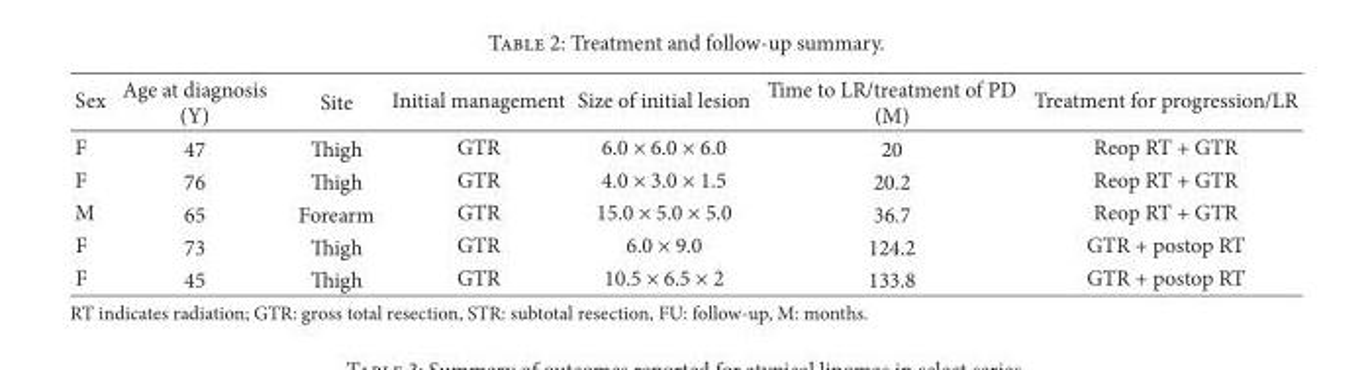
<table><thead><tr><td>Sex</td><td>Age at diagnosis (Y)</td><td>Site</td><td>Initial management</td><td>Size of initial lesion</td><td>Time to LR/treatment of PD (M)</td><td>Treatment for progression/LR</td></tr></thead><tbody><tr><td>F</td><td>47</td><td>igh</td><td>GTR</td><td>6.0 × 6.0 × 6.0</td><td>20</td><td>Reop RT + GTR</td></tr><tr><td>F</td><td>76</td><td>igh</td><td>GTR</td><td>4.0 × 3.0 × 1.5</td><td>20.2</td><td>Reop RT + GTR</td></tr><tr><td>M</td><td>65</td><td>Forearm</td><td>GTR</td><td>15.0 × 5.0 × 5.0</td><td>36.7</td><td>Reop RT + GTR</td></tr><tr><td>F</td><td>73</td><td>igh</td><td>GTR</td><td>6.0 × 9.0</td><td>124.2</td><td>GTR + postop RT</td></tr><tr><td>F</td><td>45</td><td>igh</td><td>GTR</td><td>10.5 × 6.5 × 2</td><td>133.8</td><td>GTR + postop RT</td></tr></tbody></table>